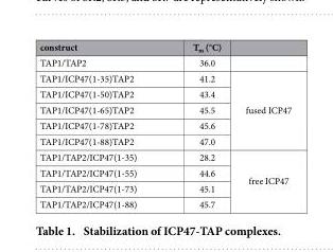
<table><thead><tr><td>construct</td><td>T<sub>m</sub> (°C)</td><td></td></tr></thead><tbody><tr><td>TAP1/TAP2</td><td>36.0</td><td></td></tr><tr><td>TAP1/ICP47(1-35)TAP2</td><td>41.2</td><td rowspan="5">fused ICP47</td></tr><tr><td>TAP1/ICP47(1-50)TAP2</td><td>43.4</td></tr><tr><td>TAP1/ICP47(1-65)TAP2</td><td>45.5</td></tr><tr><td>TAP1/ICP47(1-78)TAP2</td><td>45.6</td></tr><tr><td>TAP1/ICP47(1-88)TAP2</td><td>47.0</td></tr><tr><td>TAP1/TAP2/ICP47(1-35)</td><td>28.2</td><td rowspan="4">free ICP47</td></tr><tr><td>TAP1/TAP2/ICP47(1-55)</td><td>44.6</td></tr><tr><td>TAP1/TAP2/ICP47(1-73)</td><td>45.1</td></tr><tr><td>TAP1/TAP2/ICP47(1-88)</td><td>45.7</td></tr></tbody></table>